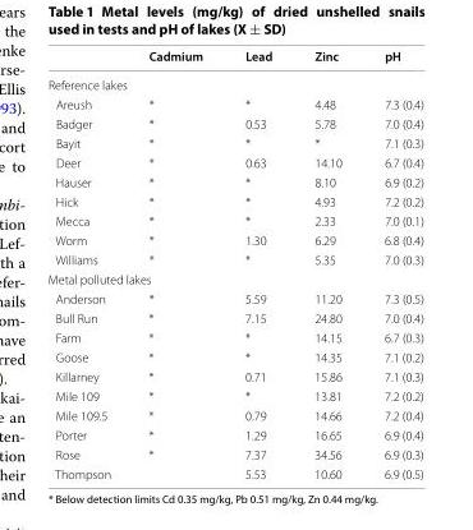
<table><thead><tr><td></td><td>Cadmium</td><td>Lead</td><td>Zinc</td><td>pH</td></tr></thead><tbody><tr><td colspan="5">Reference lakes</td></tr><tr><td>Areush</td><td>*</td><td>*</td><td>4.48</td><td>7.3 (0.4)</td></tr><tr><td>Badger</td><td>*</td><td>0.53</td><td>5.78</td><td>7.0 (0.4)</td></tr><tr><td>Bayit</td><td>*</td><td>*</td><td>*</td><td>7.1 (0.3)</td></tr><tr><td>Deer</td><td>*</td><td>0.63</td><td>14.10</td><td>6.7 (0.4)</td></tr><tr><td>Hauser</td><td>*</td><td>*</td><td>8.10</td><td>6.9 (0.2)</td></tr><tr><td>Hick</td><td>*</td><td>*</td><td>4.93</td><td>7.2 (0.2)</td></tr><tr><td>Mecca</td><td>*</td><td>*</td><td>2.33</td><td>7.0 (0.1)</td></tr><tr><td>Worm</td><td>*</td><td>1.30</td><td>6.29</td><td>6.8 (0.4)</td></tr><tr><td>Williams</td><td>*</td><td>*</td><td>5.35</td><td>7.0 (0.3)</td></tr><tr><td colspan="5">Metal polluted lakes</td></tr><tr><td>Anderson</td><td>*</td><td>5.59</td><td>11.20</td><td>7.3 (0.5)</td></tr><tr><td>Bull Run</td><td>*</td><td>7.15</td><td>24.80</td><td>7.0 (0.4)</td></tr><tr><td>Farm</td><td>*</td><td>*</td><td>14.15</td><td>6.7 (0.3)</td></tr><tr><td>Goose</td><td>*</td><td>*</td><td>14.35</td><td>7.1 (0.2)</td></tr><tr><td>Killarney</td><td>*</td><td>0.71</td><td>15.86</td><td>7.1 (0.3)</td></tr><tr><td>Mile 109</td><td>*</td><td>*</td><td>13.81</td><td>7.2 (0.2)</td></tr><tr><td>Mile 109.5</td><td>*</td><td>0.79</td><td>14.66</td><td>7.2 (0.4)</td></tr><tr><td>Porter</td><td>*</td><td>1.29</td><td>16.65</td><td>6.9 (0.4)</td></tr><tr><td>Rose</td><td>*</td><td>7.37</td><td>34.56</td><td>6.9 (0.3)</td></tr><tr><td>Thompson</td><td></td><td>5.53</td><td>10.60</td><td>6.9 (0.5)</td></tr></tbody></table>